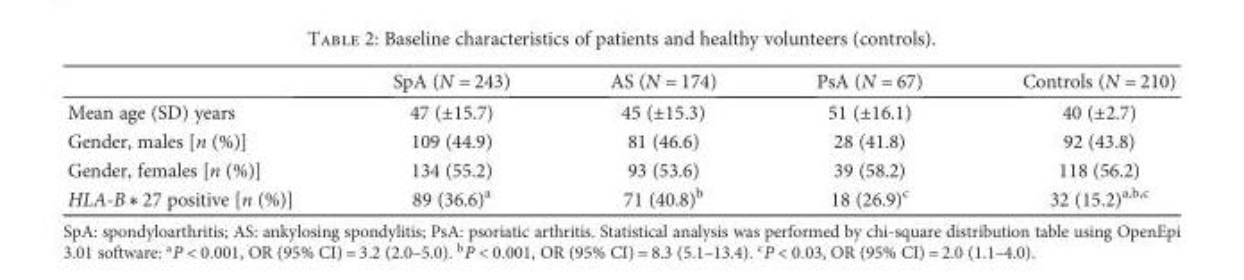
<table><thead><tr><td></td><td>SpA (N = 243)</td><td>AS (N = 174)</td><td>PsA (N = 67)</td><td>Controls (N = 210)</td></tr></thead><tbody><tr><td>Mean age (SD) years</td><td>47 (±15.7)</td><td>45 (±15.3)</td><td>51 (±16.1)</td><td>40 (±2.7)</td></tr><tr><td>Gender, males [n (%)]</td><td>109 (44.9)</td><td>81 (46.6)</td><td>28 (41.8)</td><td>92 (43.8)</td></tr><tr><td>Gender, females [n (%)]</td><td>134 (55.2)</td><td>93 (53.6)</td><td>39 (58.2)</td><td>118 (56.2)</td></tr><tr><td>HLA-B∗ 27 positive [n (%)]</td><td>89 (36.6)<sup>a</sup></td><td>71 (40.8)<sup>b</sup></td><td>18 (26.9)<sup>c</sup></td><td>32 (15.2)<sup>a,b,c</sup></td></tr></tbody></table>